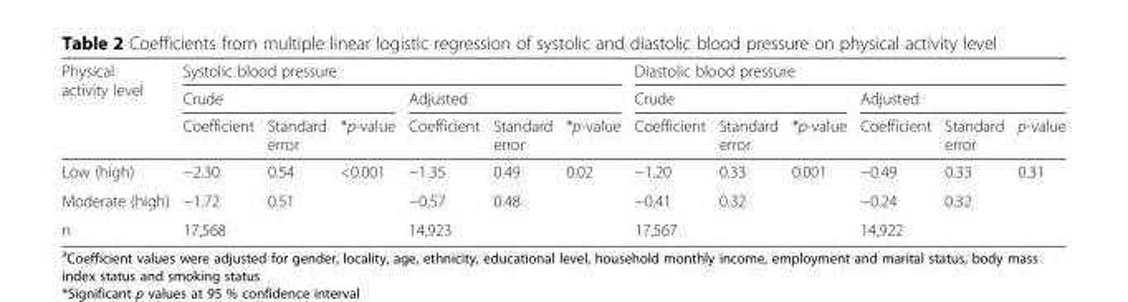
<table><thead><tr><td rowspan="3">Physical activity level</td><td colspan="6">Systolic blood pressure</td><td colspan="6">Diastolic blood pressure</td></tr><tr><td colspan="3">Crude</td><td colspan="3">Adjusted</td><td colspan="3">Crude</td><td colspan="3">Adjusted</td></tr><tr><td>Coefficient</td><td>Standard error</td><td>*p-value</td><td>Coefficient</td><td>Standard error</td><td>*p-value</td><td>Coefficient</td><td>Standard error</td><td>*p-value</td><td>Coefficient</td><td>Standard error</td><td>p-value</td></tr></thead><tbody><tr><td>Low (high)</td><td>−2.30</td><td>0.54</td><td rowspan="2">&lt;0.001</td><td>−1.35</td><td>0.49</td><td rowspan="2">0.02</td><td>−1.20</td><td>0.33</td><td rowspan="2">0.001</td><td>−0.49</td><td>0.33</td><td rowspan="2">0.31</td></tr><tr><td>Moderate (high)</td><td>−1.72</td><td>0.51</td><td>−0.57</td><td>0.48</td><td>−0.41</td><td>0.32</td><td>−0.24</td><td>0.32</td></tr><tr><td>n</td><td colspan="3">17,568</td><td colspan="3">14,923</td><td colspan="3">17,567</td><td colspan="3">14,922</td></tr></tbody></table>